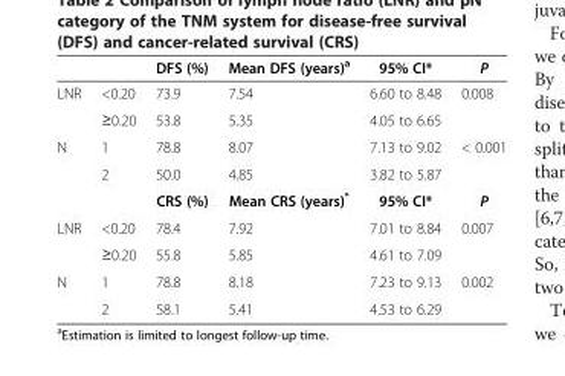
<table><thead><tr><td></td><td></td><td>DFS (%)</td><td>Mean DFS (years)<sup>a</sup></td><td>95% CI*</td><td>P</td></tr></thead><tbody><tr><td rowspan="2">LNR</td><td>&lt;0.20</td><td>73.9</td><td>7.54</td><td>6.60 to 8.48</td><td rowspan="2">0.008</td></tr><tr><td>≥0.20</td><td>53.8</td><td>5.35</td><td>4.05 to 6.65</td></tr><tr><td rowspan="3">N</td><td>1</td><td>78.8</td><td>8.07</td><td>7.13 to 9.02</td><td rowspan="2">&lt; 0.001</td></tr><tr><td>2</td><td>50.0</td><td>4.85</td><td>3.82 to 5.87</td></tr><tr><td></td><td>CRS (%)</td><td>Mean CRS (years)*</td><td>95% CI*</td><td>P</td></tr><tr><td rowspan="2">LNR</td><td>&lt;0.20</td><td>78.4</td><td>7.92</td><td>7.01 to 8.84</td><td rowspan="2">0.007</td></tr><tr><td>≥0.20</td><td>55.8</td><td>5.85</td><td>4.61 to 7.09</td></tr><tr><td rowspan="2">N</td><td>1</td><td>78.8</td><td>8.18</td><td>7.23 to 9.13</td><td>0.002</td></tr><tr><td>2</td><td>58.1</td><td>5.41</td><td>4.53 to 6.29</td><td></td></tr></tbody></table>